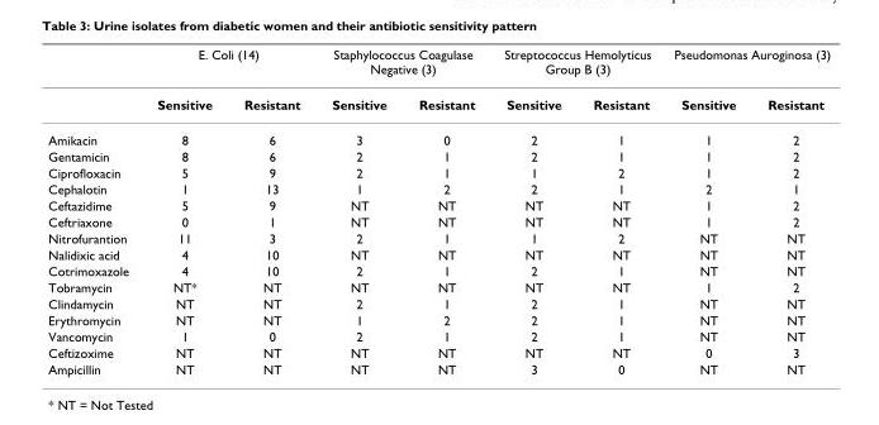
<table><thead><tr><td rowspan="2"></td><td colspan="2">E. Coli (14)</td><td colspan="2">Staphylococcus Coagulase Negative (3)</td><td colspan="2">Streptococcus Hemolyticus Group B (3)</td><td colspan="2">Pseudomonas Auroginosa (3)</td></tr><tr><td>Sensitive</td><td>Resistant</td><td>Sensitive</td><td>Resistant</td><td>Sensitive</td><td>Resistant</td><td>Sensitive</td><td>Resistant</td></tr></thead><tbody><tr><td>Amikacin</td><td>8</td><td>6</td><td>3</td><td>0</td><td>2</td><td>1</td><td>1</td><td>2</td></tr><tr><td>Gentamicin</td><td>8</td><td>6</td><td>2</td><td>1</td><td>2</td><td>1</td><td>1</td><td>2</td></tr><tr><td>Ciprofloxacin</td><td>5</td><td>9</td><td>2</td><td>1</td><td>1</td><td>2</td><td>1</td><td>2</td></tr><tr><td>Cephalotin</td><td>1</td><td>13</td><td>1</td><td>2</td><td>2</td><td>1</td><td>2</td><td>1</td></tr><tr><td>Ceftazidime</td><td>5</td><td>9</td><td>NT</td><td>NT</td><td>NT</td><td>NT</td><td>1</td><td>2</td></tr><tr><td>Ceftriaxone</td><td>0</td><td>1</td><td>NT</td><td>NT</td><td>NT</td><td>NT</td><td>1</td><td>2</td></tr><tr><td>Nitrofurantion</td><td>11</td><td>3</td><td>2</td><td>1</td><td>1</td><td>2</td><td>NT</td><td>NT</td></tr><tr><td>Nalidixic acid</td><td>4</td><td>10</td><td>NT</td><td>NT</td><td>NT</td><td>NT</td><td>NT</td><td>NT</td></tr><tr><td>Cotrimoxazole</td><td>4</td><td>10</td><td>2</td><td>1</td><td>2</td><td>1</td><td>NT</td><td>NT</td></tr><tr><td>Tobramycin</td><td>NT*</td><td>NT</td><td>NT</td><td>NT</td><td>NT</td><td>NT</td><td>1</td><td>2</td></tr><tr><td>Clindamycin</td><td>NT</td><td>NT</td><td>2</td><td>1</td><td>2</td><td>1</td><td>NT</td><td>NT</td></tr><tr><td>Erythromycin</td><td>NT</td><td>NT</td><td>1</td><td>2</td><td>2</td><td>1</td><td>NT</td><td>NT</td></tr><tr><td>Vancomycin</td><td>1</td><td>0</td><td>2</td><td>1</td><td>2</td><td>1</td><td>NT</td><td>NT</td></tr><tr><td>Ceftizoxime</td><td>NT</td><td>NT</td><td>NT</td><td>NT</td><td>NT</td><td>NT</td><td>0</td><td>3</td></tr><tr><td>Ampicillin</td><td>NT</td><td>NT</td><td>NT</td><td>NT</td><td>3</td><td>0</td><td>NT</td><td>NT</td></tr></tbody></table>